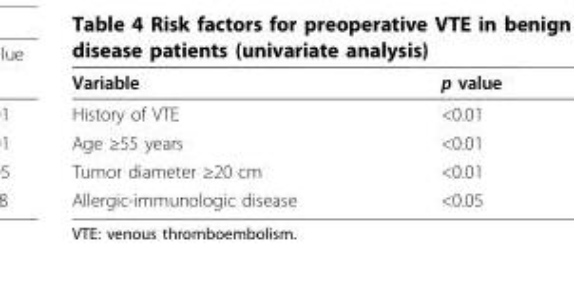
<table><thead><tr><td>Variable</td><td>p value</td></tr></thead><tbody><tr><td>History of VTE</td><td>&lt;0.01</td></tr><tr><td>Age ≥55 years</td><td>&lt;0.01</td></tr><tr><td>Tumor diameter ≥20 cm</td><td>&lt;0.01</td></tr><tr><td>Allergic-immunologic disease</td><td>&lt;0.05</td></tr></tbody></table>